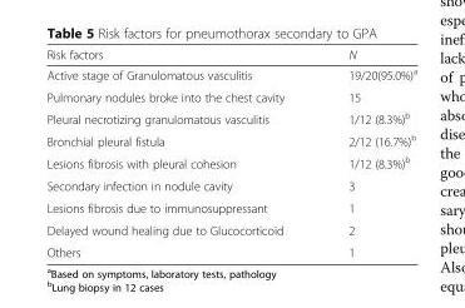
<table><thead><tr><td>Risk factors</td><td>N</td></tr></thead><tbody><tr><td>Active stage of Granulomatous vasculitis</td><td>19/20(95.0%)<sup>a</sup></td></tr><tr><td>Pulmonary nodules broke into the chest cavity</td><td>15</td></tr><tr><td>Pleural necrotizing granulomatous vasculitis</td><td>1/12 (8.3%)<sup>b</sup></td></tr><tr><td>Bronchial pleural fistula</td><td>2/12 (16.7%)<sup>b</sup></td></tr><tr><td>Lesions fibrosis with pleural cohesion</td><td>1/12 (8.3%)<sup>b</sup></td></tr><tr><td>Secondary infection in nodule cavity</td><td>3</td></tr><tr><td>Lesions fibrosis due to immunosuppressant</td><td>1</td></tr><tr><td>Delayed wound healing due to Glucocorticoid</td><td>2</td></tr><tr><td>Others</td><td>1</td></tr></tbody></table>